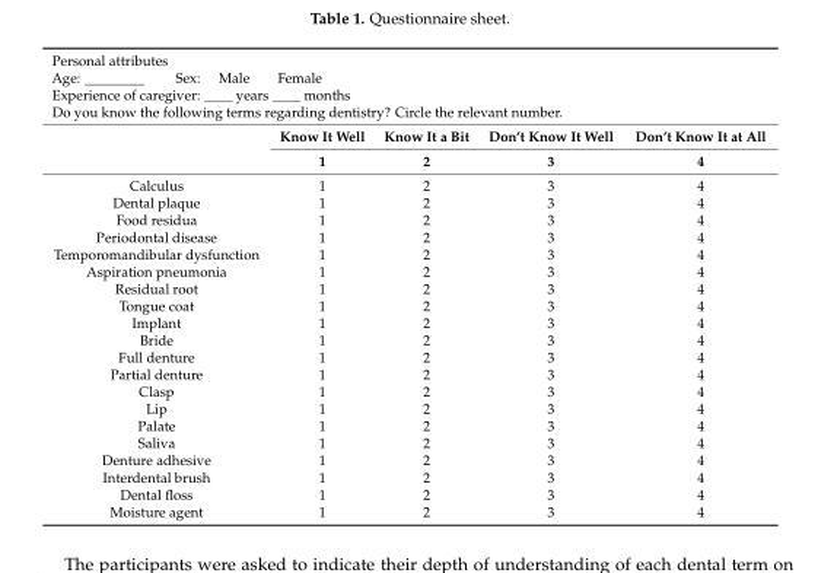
<table><tbody><tr><td colspan="5">Personal attributes Age: Sex: Male Female Experience of caregiver: years months Do you know the following terms regarding dentistry? Circle the relevant number.</td></tr><tr><td rowspan="2"></td><td>Know It Well</td><td>Know It a Bit</td><td>Don’t Know It Well</td><td>Don’t Know It at All</td></tr><tr><td>1</td><td>2</td><td>3</td><td>4</td></tr><tr><td>Calculus</td><td>1</td><td>2</td><td>3</td><td>4</td></tr><tr><td>Dental plaque</td><td>1</td><td>2</td><td>3</td><td>4</td></tr><tr><td>Food residua</td><td>1</td><td>2</td><td>3</td><td>4</td></tr><tr><td>Periodontal disease</td><td>1</td><td>2</td><td>3</td><td>4</td></tr><tr><td>Temporomandibular dysfunction</td><td>1</td><td>2</td><td>3</td><td>4</td></tr><tr><td>Aspiration pneumonia</td><td>1</td><td>2</td><td>3</td><td>4</td></tr><tr><td>Residual root</td><td>1</td><td>2</td><td>3</td><td>4</td></tr><tr><td>Tongue coat</td><td>1</td><td>2</td><td>3</td><td>4</td></tr><tr><td>Implant</td><td>1</td><td>2</td><td>3</td><td>4</td></tr><tr><td>Bride</td><td>1</td><td>2</td><td>3</td><td>4</td></tr><tr><td>Full denture</td><td>1</td><td>2</td><td>3</td><td>4</td></tr><tr><td>Partial denture</td><td>1</td><td>2</td><td>3</td><td>4</td></tr><tr><td>Clasp</td><td>1</td><td>2</td><td>3</td><td>4</td></tr><tr><td>Lip</td><td>1</td><td>2</td><td>3</td><td>4</td></tr><tr><td>Palate</td><td>1</td><td>2</td><td>3</td><td>4</td></tr><tr><td>Saliva</td><td>1</td><td>2</td><td>3</td><td>4</td></tr><tr><td>Denture adhesive</td><td>1</td><td>2</td><td>3</td><td>4</td></tr><tr><td>Interdental brush</td><td>1</td><td>2</td><td>3</td><td>4</td></tr><tr><td>Dental floss</td><td>1</td><td>2</td><td>3</td><td>4</td></tr><tr><td>Moisture agent</td><td>1</td><td>2</td><td>3</td><td>4</td></tr></tbody></table>